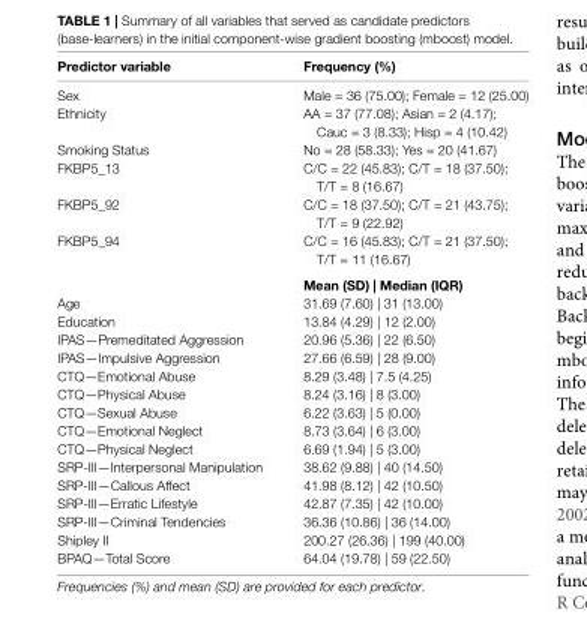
<table><thead><tr><td>Predictor variable</td><td>Frequency (%)</td></tr></thead><tbody><tr><td>Sex</td><td>Male = 36 (75.00); Female = 12 (25.00)</td></tr><tr><td>Ethnicity</td><td>AA = 37 (77.08); Asian = 2 (4.17); Cauc = 3 (8.33); Hisp = 4 (10.42)</td></tr><tr><td>Smoking Status</td><td>No = 28 (58.33); Yes = 20 (41.67)</td></tr><tr><td>FKBP5_13</td><td>C/C = 22 (45.83); C/T = 18 (37.50); T/T = 8 (16.67)</td></tr><tr><td>FKBP5_92</td><td>C/C = 18 (37.50); C/T = 21 (43.75); T/T = 9 (22.92)</td></tr><tr><td rowspan="2">FKBP5_94</td><td>C/C = 16 (45.83); C/T = 21 (37.50); T/T = 11 (16.67)</td></tr><tr><td>Mean (SD) | Median (IQR)</td></tr><tr><td>Age</td><td>31.69 (7.60) | 31 (13.00)</td></tr><tr><td>Education</td><td>13.84 (4.29) | 12 (2.00)</td></tr><tr><td>IPAS—Premeditated Aggression</td><td>20.96 (5.36) | 22 (6.50)</td></tr><tr><td>IPAS—Impulsive Aggression</td><td>27.66 (6.59) | 28 (9.00)</td></tr><tr><td>CTQ—Emotional Abuse</td><td>8.29 (3.48) | 7.5 (4.25)</td></tr><tr><td>CTQ—Physical Abuse</td><td>8.24 (3.16) | 8 (3.00)</td></tr><tr><td>CTQ—Sexual Abuse</td><td>6.22 (3.63) | 5 (0.00)</td></tr><tr><td>CTQ—Emotional Neglect</td><td>8.73 (3.64) | 6 (3.00)</td></tr><tr><td>CTQ—Physical Neglect</td><td>6.69 (1.94) | 5 (3.00)</td></tr><tr><td>SRP-III—Interpersonal Manipulation</td><td>38.62 (9.88) | 40 (14.50)</td></tr><tr><td>SRP-III—Callous Affect</td><td>41.98 (8.12) | 42 (10.50)</td></tr><tr><td>SRP-III—Erratic Lifestyle</td><td>42.87 (7.35) | 42 (10.00)</td></tr><tr><td>SRP-III—Criminal Tendencies</td><td>36.36 (10.86) | 36 (14.00)</td></tr><tr><td>Shipley II</td><td>200.27 (26.36) | 199 (40.00)</td></tr><tr><td>BPAQ—Total Score</td><td>64.04 (19.78) | 59 (22.50)</td></tr></tbody></table>